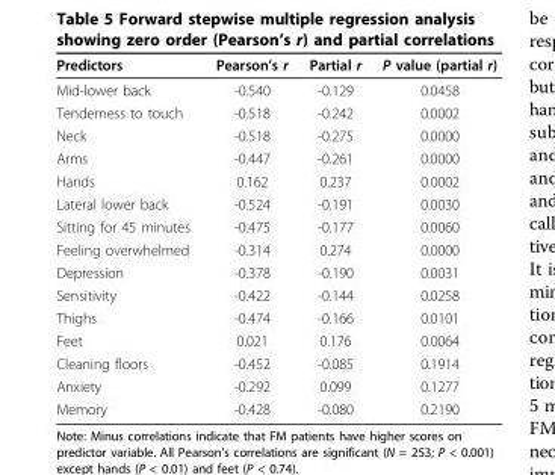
<table><thead><tr><td>Predictors</td><td>Pearson’s r</td><td>Partial r</td><td>P value (partial r)</td></tr></thead><tbody><tr><td>Mid-lower back</td><td>-0.540</td><td>-0.129</td><td>0.0458</td></tr><tr><td>Tenderness to touch</td><td>-0.518</td><td>-0.242</td><td>0.0002</td></tr><tr><td>Neck</td><td>-0.518</td><td>-0.275</td><td>0.0000</td></tr><tr><td>Arms</td><td>-0.447</td><td>-0.261</td><td>0.0000</td></tr><tr><td>Hands</td><td>0.162</td><td>0.237</td><td>0.0002</td></tr><tr><td>Lateral lower back</td><td>-0.524</td><td>-0.191</td><td>0.0030</td></tr><tr><td>Sitting for 45 minutes</td><td>-0.475</td><td>-0.177</td><td>0.0060</td></tr><tr><td>Feeling overwhelmed</td><td>-0.314</td><td>0.274</td><td>0.0000</td></tr><tr><td>Depression</td><td>-0.378</td><td>-0.190</td><td>0.0031</td></tr><tr><td>Sensitivity</td><td>-0.422</td><td>-0.144</td><td>0.0258</td></tr><tr><td>Thighs</td><td>-0.474</td><td>-0.166</td><td>0.0101</td></tr><tr><td>Feet</td><td>0.021</td><td>0.176</td><td>0.0064</td></tr><tr><td>Cleaning floors</td><td>-0.452</td><td>-0.085</td><td>0.1914</td></tr><tr><td>Anxiety</td><td>-0.292</td><td>0.099</td><td>0.1277</td></tr><tr><td>Memory</td><td>-0.428</td><td>-0.080</td><td>0.2190</td></tr></tbody></table>